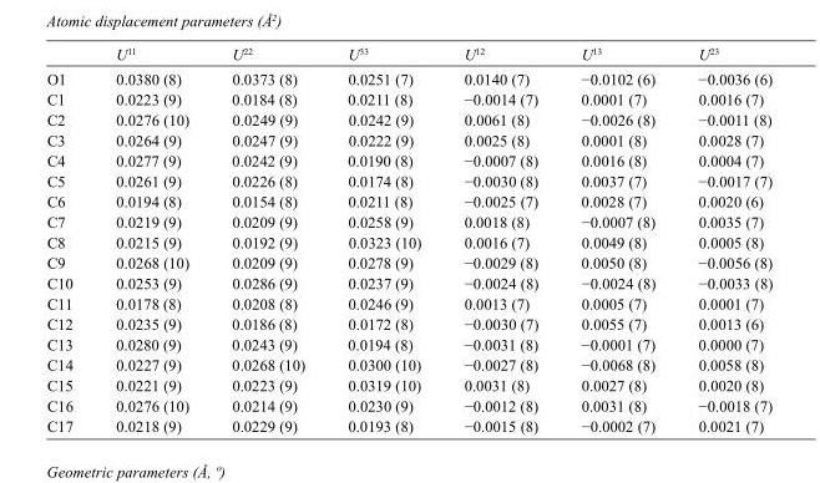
<table><thead><tr><td></td><td>U<sup>11</sup></td><td>U<sup>22</sup></td><td>U<sup>33</sup></td><td>U<sup>12</sup></td><td>U<sup>13</sup></td><td>U<sup>23</sup></td></tr></thead><tbody><tr><td>O1</td><td>0.0380 (8)</td><td>0.0373 (8)</td><td>0.0251 (7)</td><td>0.0140 (7)</td><td>−0.0102 (6)</td><td>−0.0036 (6)</td></tr><tr><td>C1</td><td>0.0223 (9)</td><td>0.0184 (8)</td><td>0.0211 (8)</td><td>−0.0014 (7)</td><td>0.0001 (7)</td><td>0.0016 (7)</td></tr><tr><td>C2</td><td>0.0276 (10)</td><td>0.0249 (9)</td><td>0.0242 (9)</td><td>0.0061 (8)</td><td>−0.0026 (8)</td><td>−0.0011 (8)</td></tr><tr><td>C3</td><td>0.0264 (9)</td><td>0.0247 (9)</td><td>0.0222 (9)</td><td>0.0025 (8)</td><td>0.0001 (8)</td><td>0.0028 (7)</td></tr><tr><td>C4</td><td>0.0277 (9)</td><td>0.0242 (9)</td><td>0.0190 (8)</td><td>−0.0007 (8)</td><td>0.0016 (8)</td><td>0.0004 (7)</td></tr><tr><td>C5</td><td>0.0261 (9)</td><td>0.0226 (8)</td><td>0.0174 (8)</td><td>−0.0030 (8)</td><td>0.0037 (7)</td><td>−0.0017 (7)</td></tr><tr><td>C6</td><td>0.0194 (8)</td><td>0.0154 (8)</td><td>0.0211 (8)</td><td>−0.0025 (7)</td><td>0.0028 (7)</td><td>0.0020 (6)</td></tr><tr><td>C7</td><td>0.0219 (9)</td><td>0.0209 (9)</td><td>0.0258 (9)</td><td>0.0018 (8)</td><td>−0.0007 (8)</td><td>0.0035 (7)</td></tr><tr><td>C8</td><td>0.0215 (9)</td><td>0.0192 (9)</td><td>0.0323 (10)</td><td>0.0016 (7)</td><td>0.0049 (8)</td><td>0.0005 (8)</td></tr><tr><td>C9</td><td>0.0268 (10)</td><td>0.0209 (9)</td><td>0.0278 (9)</td><td>−0.0029 (8)</td><td>0.0050 (8)</td><td>−0.0056 (8)</td></tr><tr><td>C10</td><td>0.0253 (9)</td><td>0.0286 (9)</td><td>0.0237 (9)</td><td>−0.0024 (8)</td><td>−0.0024 (8)</td><td>−0.0033 (8)</td></tr><tr><td>C11</td><td>0.0178 (8)</td><td>0.0208 (8)</td><td>0.0246 (9)</td><td>0.0013 (7)</td><td>0.0005 (7)</td><td>0.0001 (7)</td></tr><tr><td>C12</td><td>0.0235 (9)</td><td>0.0186 (8)</td><td>0.0172 (8)</td><td>−0.0030 (7)</td><td>0.0055 (7)</td><td>0.0013 (6)</td></tr><tr><td>C13</td><td>0.0280 (9)</td><td>0.0243 (9)</td><td>0.0194 (8)</td><td>−0.0031 (8)</td><td>−0.0001 (7)</td><td>0.0000 (7)</td></tr><tr><td>C14</td><td>0.0227 (9)</td><td>0.0268 (10)</td><td>0.0300 (10)</td><td>−0.0027 (8)</td><td>−0.0068 (8)</td><td>0.0058 (8)</td></tr><tr><td>C15</td><td>0.0221 (9)</td><td>0.0223 (9)</td><td>0.0319 (10)</td><td>0.0031 (8)</td><td>0.0027 (8)</td><td>0.0020 (8)</td></tr><tr><td>C16</td><td>0.0276 (10)</td><td>0.0214 (9)</td><td>0.0230 (9)</td><td>−0.0012 (8)</td><td>0.0031 (8)</td><td>−0.0018 (7)</td></tr><tr><td>C17</td><td>0.0218 (9)</td><td>0.0229 (9)</td><td>0.0193 (8)</td><td>−0.0015 (8)</td><td>−0.0002 (7)</td><td>0.0021 (7)</td></tr></tbody></table>